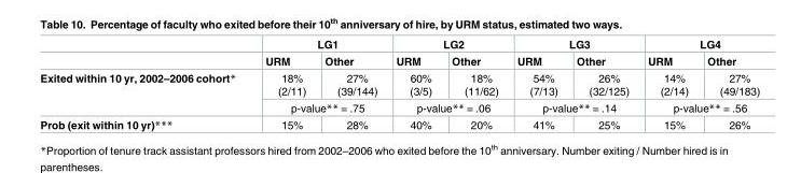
<table><thead><tr><td rowspan="2"></td><td colspan="2">LG1</td><td colspan="2">LG2</td><td colspan="2">LG3</td><td colspan="2">LG4</td></tr><tr><td>URM</td><td>Other</td><td>URM</td><td>Other</td><td>URM</td><td>Other</td><td>URM</td><td>Other</td></tr></thead><tbody><tr><td rowspan="2">Exited within 10 yr, 2002–2006 cohort*</td><td>18% (2/11)</td><td>27% (39/144)</td><td>60% (3/5)</td><td>18% (11/62)</td><td>54% (7/13)</td><td>26% (32/125)</td><td>14% (2/14)</td><td>27% (49/183)</td></tr><tr><td colspan="2">p-value** = .75</td><td colspan="2">p-value** = .06</td><td colspan="2">p-value** = .14</td><td colspan="2">p-value** = .56</td></tr><tr><td>Prob (exit within 10 yr)***</td><td>15%</td><td>28%</td><td>40%</td><td>20%</td><td>41%</td><td>25%</td><td>15%</td><td>26%</td></tr></tbody></table>